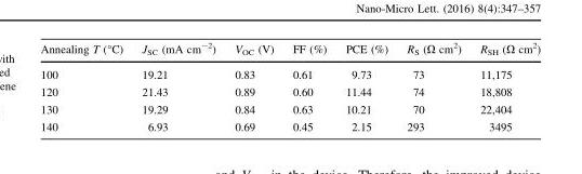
<table><thead><tr><td>Annealing T (°C)</td><td>J<sub>SC</sub> (mA cm<sup>-2</sup>)</td><td>V<sub>OC</sub> (V)</td><td>FF (%)</td><td>PCE (%)</td><td>R<sub>S</sub> (Ω cm<sup>2</sup>)</td><td>R<sub>SH</sub> (Ω cm<sup>2</sup>)</td></tr></thead><tbody><tr><td>100</td><td>19.21</td><td>0.83</td><td>0.61</td><td>9.73</td><td>73</td><td>11,175</td></tr><tr><td>120</td><td>21.43</td><td>0.89</td><td>0.60</td><td>11.44</td><td>74</td><td>18,808</td></tr><tr><td>130</td><td>19.29</td><td>0.84</td><td>0.63</td><td>10.21</td><td>70</td><td>22,404</td></tr><tr><td>140</td><td>6.93</td><td>0.69</td><td>0.45</td><td>2.15</td><td>293</td><td>3495</td></tr></tbody></table>